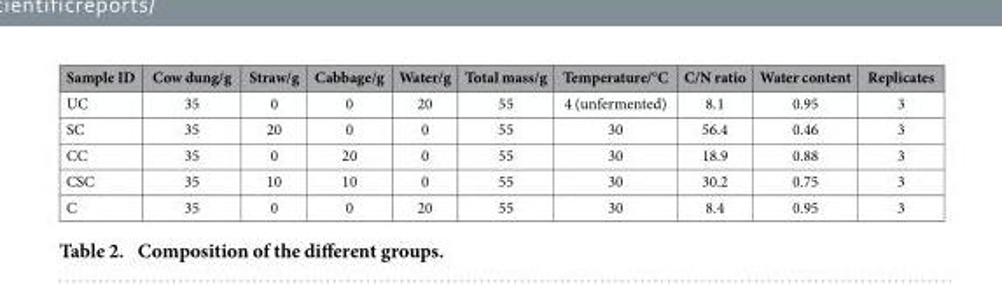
<table><thead><tr><td>Sample ID</td><td>Cow dung/g</td><td>Straw/g</td><td>Cabbage/g</td><td>Water/g</td><td>Total mass/g</td><td>Temperature/°C</td><td>C/N ratio</td><td>Water content</td><td>Replicates</td></tr></thead><tbody><tr><td>UC</td><td>35</td><td>0</td><td>0</td><td>20</td><td>55</td><td>4 (unfermented)</td><td>8.1</td><td>0.95</td><td>3</td></tr><tr><td>SC</td><td>35</td><td>20</td><td>0</td><td>0</td><td>55</td><td>30</td><td>56.4</td><td>0.46</td><td>3</td></tr><tr><td>CC</td><td>35</td><td>0</td><td>20</td><td>0</td><td>55</td><td>30</td><td>18.9</td><td>0.88</td><td>3</td></tr><tr><td>CSC</td><td>35</td><td>10</td><td>10</td><td>0</td><td>55</td><td>30</td><td>30.2</td><td>0.75</td><td>3</td></tr><tr><td>C</td><td>35</td><td>0</td><td>0</td><td>20</td><td>55</td><td>30</td><td>8.4</td><td>0.95</td><td>3</td></tr></tbody></table>